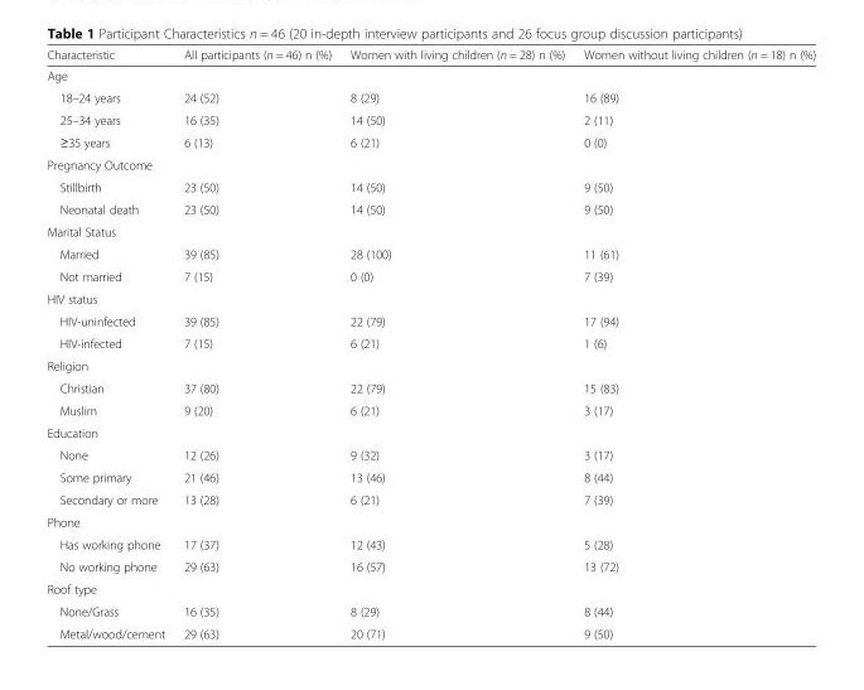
<table><thead><tr><td>Characteristic</td><td>All participants (n = 46) n (%)</td><td>Women with living children (n = 28) n (%)</td><td>Women without living children (n = 18) n (%)</td></tr></thead><tbody><tr><td colspan="4">Age</td></tr><tr><td>18–24 years</td><td>24 (52)</td><td>8 (29)</td><td>16 (89)</td></tr><tr><td>25–34 years</td><td>16 (35)</td><td>14 (50)</td><td>2 (11)</td></tr><tr><td>≥35 years</td><td>6 (13)</td><td>6 (21)</td><td>0 (0)</td></tr><tr><td colspan="4">Pregnancy Outcome</td></tr><tr><td>Stillbirth</td><td>23 (50)</td><td>14 (50)</td><td>9 (50)</td></tr><tr><td>Neonatal death</td><td>23 (50)</td><td>14 (50)</td><td>9 (50)</td></tr><tr><td colspan="4">Marital Status</td></tr><tr><td>Married</td><td>39 (85)</td><td>28 (100)</td><td>11 (61)</td></tr><tr><td>Not married</td><td>7 (15)</td><td>0 (0)</td><td>7 (39)</td></tr><tr><td colspan="4">HIV status</td></tr><tr><td>HIV-uninfected</td><td>39 (85)</td><td>22 (79)</td><td>17 (94)</td></tr><tr><td>HIV-infected</td><td>7 (15)</td><td>6 (21)</td><td>1 (6)</td></tr><tr><td colspan="4">Religion</td></tr><tr><td>Christian</td><td>37 (80)</td><td>22 (79)</td><td>15 (83)</td></tr><tr><td>Muslim</td><td>9 (20)</td><td>6 (21)</td><td>3 (17)</td></tr><tr><td colspan="4">Education</td></tr><tr><td>None</td><td>12 (26)</td><td>9 (32)</td><td>3 (17)</td></tr><tr><td>Some primary</td><td>21 (46)</td><td>13 (46)</td><td>8 (44)</td></tr><tr><td>Secondary or more</td><td>13 (28)</td><td>6 (21)</td><td>7 (39)</td></tr><tr><td colspan="4">Phone</td></tr><tr><td>Has working phone</td><td>17 (37)</td><td>12 (43)</td><td>5 (28)</td></tr><tr><td>No working phone</td><td>29 (63)</td><td>16 (57)</td><td>13 (72)</td></tr><tr><td colspan="4">Roof type</td></tr><tr><td>None/Grass</td><td>16 (35)</td><td>8 (29)</td><td>8 (44)</td></tr><tr><td>Metal/wood/cement</td><td>29 (63)</td><td>20 (71)</td><td>9 (50)</td></tr></tbody></table>